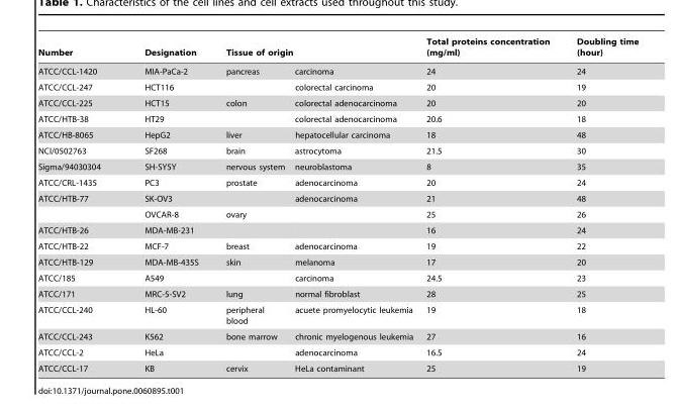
<table><thead><tr><td rowspan="2">Number ATCC/CCL-1420</td><td rowspan="2">Designation MIA-PaCa-2</td><td colspan="2">Tissue of origin</td><td rowspan="2">Total proteins concentration (mg/ml) 24</td><td rowspan="2">Doubling time (hour) 24</td></tr><tr><td>pancreas</td><td>carcinoma</td></tr></thead><tbody><tr><td>ATCC/CCL-247</td><td>HCT116</td><td></td><td>colorectal carcinoma</td><td>20</td><td>19</td></tr><tr><td>ATCC/CCL-225</td><td>HCT15</td><td>colon</td><td>colorectal adenocarcinoma</td><td>20</td><td>20</td></tr><tr><td>ATCC/HTB-38</td><td>HT29</td><td></td><td>colorectal adenocarcinoma</td><td>20.6</td><td>18</td></tr><tr><td>ATCC/HB-8065</td><td>HepG2</td><td>liver</td><td>hepatocellular carcinoma</td><td>18</td><td>48</td></tr><tr><td>NCI/0502763</td><td>SF268</td><td>brain</td><td>astrocytoma</td><td>21.5</td><td>30</td></tr><tr><td>Sigma/94030304</td><td>SH-SY5Y</td><td>nervous system</td><td>neuroblastoma</td><td>8</td><td>35</td></tr><tr><td>ATCC/CRL-1435</td><td>PC3</td><td>prostate</td><td>adenocarcinoma</td><td>20</td><td>24</td></tr><tr><td rowspan="2">ATCC/HTB-77</td><td>SK-OV3</td><td></td><td>adenocarcinoma</td><td>21</td><td>48</td></tr><tr><td>OVCAR-8</td><td>ovary</td><td></td><td>25</td><td>26</td></tr><tr><td>ATCC/HTB-26</td><td>MDA-MB-231</td><td></td><td></td><td>16</td><td>24</td></tr><tr><td>ATCC/HTB-22</td><td>MCF-7</td><td>breast</td><td>adenocarcinoma</td><td>19</td><td>22</td></tr><tr><td>ATCC/HTB-129</td><td>MDA-MB-435S</td><td>skin</td><td>melanoma</td><td>17</td><td>20</td></tr><tr><td>ATCC/185</td><td>A549</td><td></td><td>carcinoma</td><td>24.5</td><td>23</td></tr><tr><td>ATCC/171</td><td>MRC-5-SV2</td><td>lung</td><td>normal fibroblast</td><td>28</td><td>25</td></tr><tr><td>ATCC/CCL-240</td><td>HL-60</td><td>peripheral blood</td><td>acuete promyelocytic leukemia</td><td>19</td><td>18</td></tr><tr><td>ATCC/CCL-243</td><td>K562</td><td>bone marrow</td><td>chronic myelogenous leukemia</td><td>27</td><td>16</td></tr><tr><td>ATCC/CCL-2</td><td>HeLa</td><td></td><td>adenocarcinoma</td><td>16.5</td><td>24</td></tr><tr><td>ATCC/CCL-17</td><td>KB</td><td>cervix</td><td>HeLa contaminant</td><td>25</td><td>19</td></tr></tbody></table>